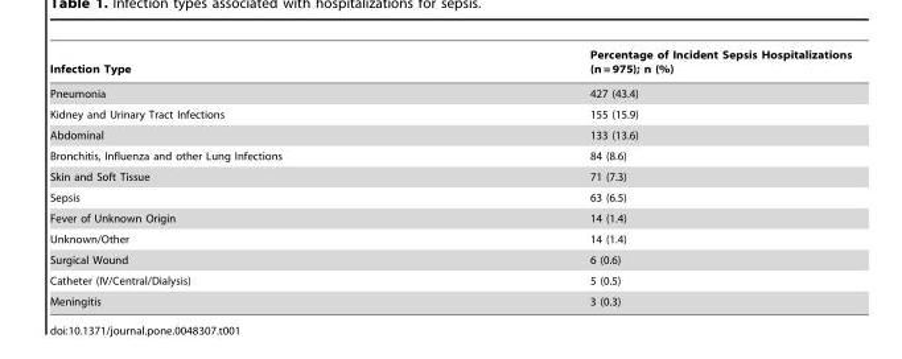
<table><thead><tr><td>Infection Type</td><td>Percentage of Incident Sepsis Hospitalizations (n = 975); n (%)</td></tr></thead><tbody><tr><td>Pneumonia</td><td>427 (43.4)</td></tr><tr><td>Kidney and Urinary Tract Infections</td><td>155 (15.9)</td></tr><tr><td>Abdominal</td><td>133 (13.6)</td></tr><tr><td>Bronchitis, Influenza and other Lung Infections</td><td>84 (8.6)</td></tr><tr><td>Skin and Soft Tissue</td><td>71 (7.3)</td></tr><tr><td>Sepsis</td><td>63 (6.5)</td></tr><tr><td>Fever of Unknown Origin</td><td>14 (1.4)</td></tr><tr><td>Unknown/Other</td><td>14 (1.4)</td></tr><tr><td>Surgical Wound</td><td>6 (0.6)</td></tr><tr><td>Catheter (IV/Central/Dialysis)</td><td>5 (0.5)</td></tr><tr><td>Meningitis</td><td>3 (0.3)</td></tr></tbody></table>